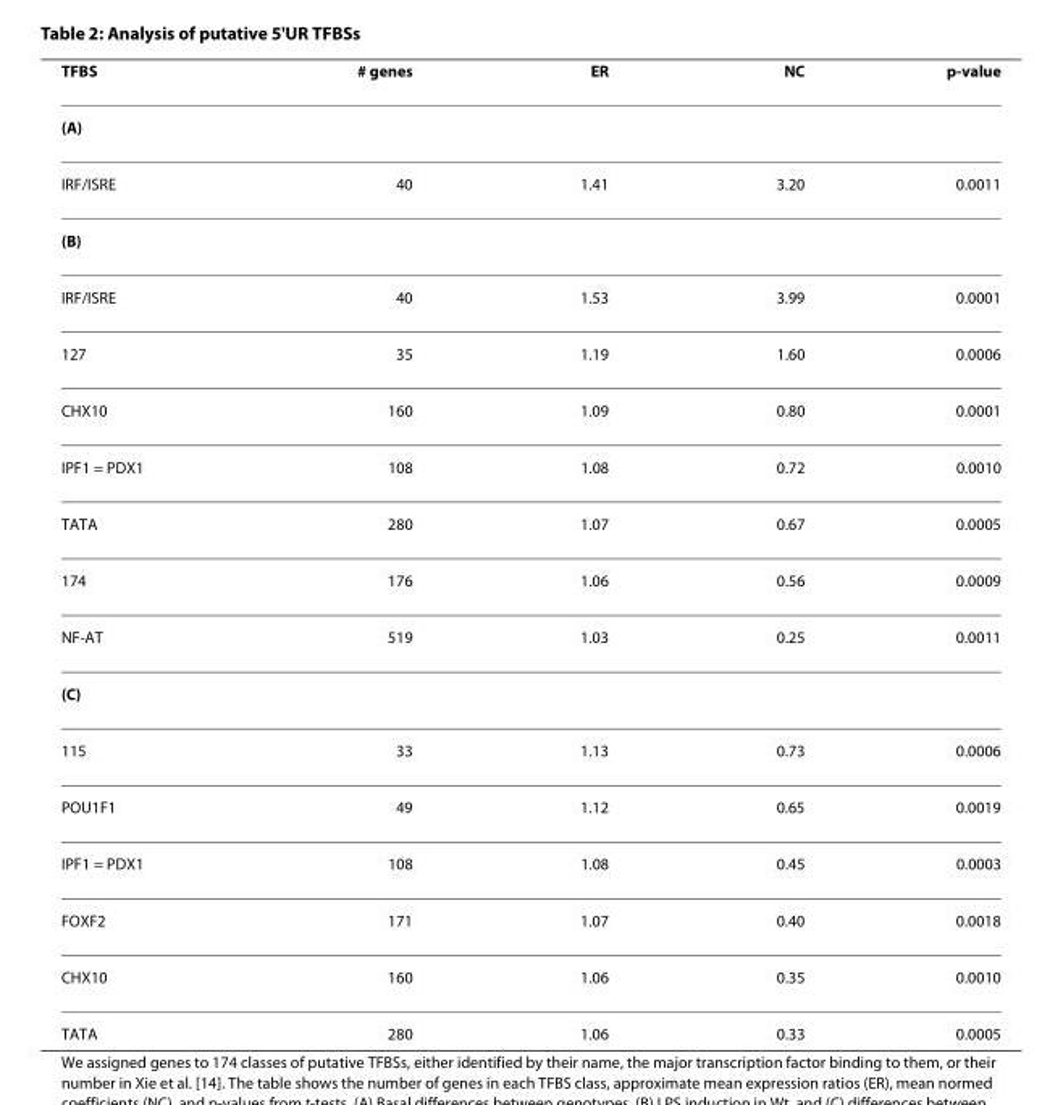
<table><thead><tr><td>TFBS</td><td># genes</td><td>ER</td><td>NC</td><td>p-value</td></tr></thead><tbody><tr><td colspan="5">(A)</td></tr><tr><td>IRF/ISRE</td><td>40</td><td>1.41</td><td>3.20</td><td>0.0011</td></tr><tr><td colspan="5">(B)</td></tr><tr><td>IRF/ISRE</td><td>40</td><td>1.53</td><td>3.99</td><td>0.0001</td></tr><tr><td>127</td><td>35</td><td>1.19</td><td>1.60</td><td>0.0006</td></tr><tr><td>CHX10</td><td>160</td><td>1.09</td><td>0.80</td><td>0.0001</td></tr><tr><td>IPF1 = PDX1</td><td>108</td><td>1.08</td><td>0.72</td><td>0.0010</td></tr><tr><td>TATA</td><td>280</td><td>1.07</td><td>0.67</td><td>0.0005</td></tr><tr><td>174</td><td>176</td><td>1.06</td><td>0.56</td><td>0.0009</td></tr><tr><td>NF-AT</td><td>519</td><td>1.03</td><td>0.25</td><td>0.0011</td></tr><tr><td colspan="5">(C)</td></tr><tr><td>115</td><td>33</td><td>1.13</td><td>0.73</td><td>0.0006</td></tr><tr><td>POU1F1</td><td>49</td><td>1.12</td><td>0.65</td><td>0.0019</td></tr><tr><td>IPF1 = PDX1</td><td>108</td><td>1.08</td><td>0.45</td><td>0.0003</td></tr><tr><td>FOXF2</td><td>171</td><td>1.07</td><td>0.40</td><td>0.0018</td></tr><tr><td>CHX10</td><td>160</td><td>1.06</td><td>0.35</td><td>0.0010</td></tr><tr><td>TATA</td><td>280</td><td>1.06</td><td>0.33</td><td>0.0005</td></tr></tbody></table>